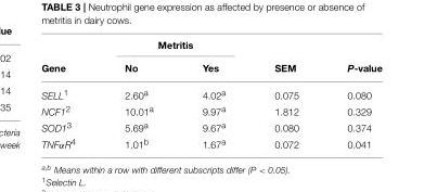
<table><thead><tr><td rowspan="2">Gene</td><td colspan="2">Metritis</td><td rowspan="2">SEM</td><td rowspan="2">P-value</td></tr><tr><td>No</td><td>Yes</td></tr></thead><tbody><tr><td>SELL<sup>1</sup></td><td>2.60<sup>a</sup></td><td>4.02<sup>a</sup></td><td>0.075</td><td>0.080</td></tr><tr><td>NCF1<sup>2</sup></td><td>10.01<sup>a</sup></td><td>9.97<sup>a</sup></td><td>1.812</td><td>0.329</td></tr><tr><td>SOD1<sup>3</sup></td><td>5.69<sup>a</sup></td><td>9.67<sup>a</sup></td><td>0.080</td><td>0.374</td></tr><tr><td>TNFαR<sup>4</sup></td><td>1.01<sup>b</sup></td><td>1.67<sup>a</sup></td><td>0.072</td><td>0.041</td></tr></tbody></table>